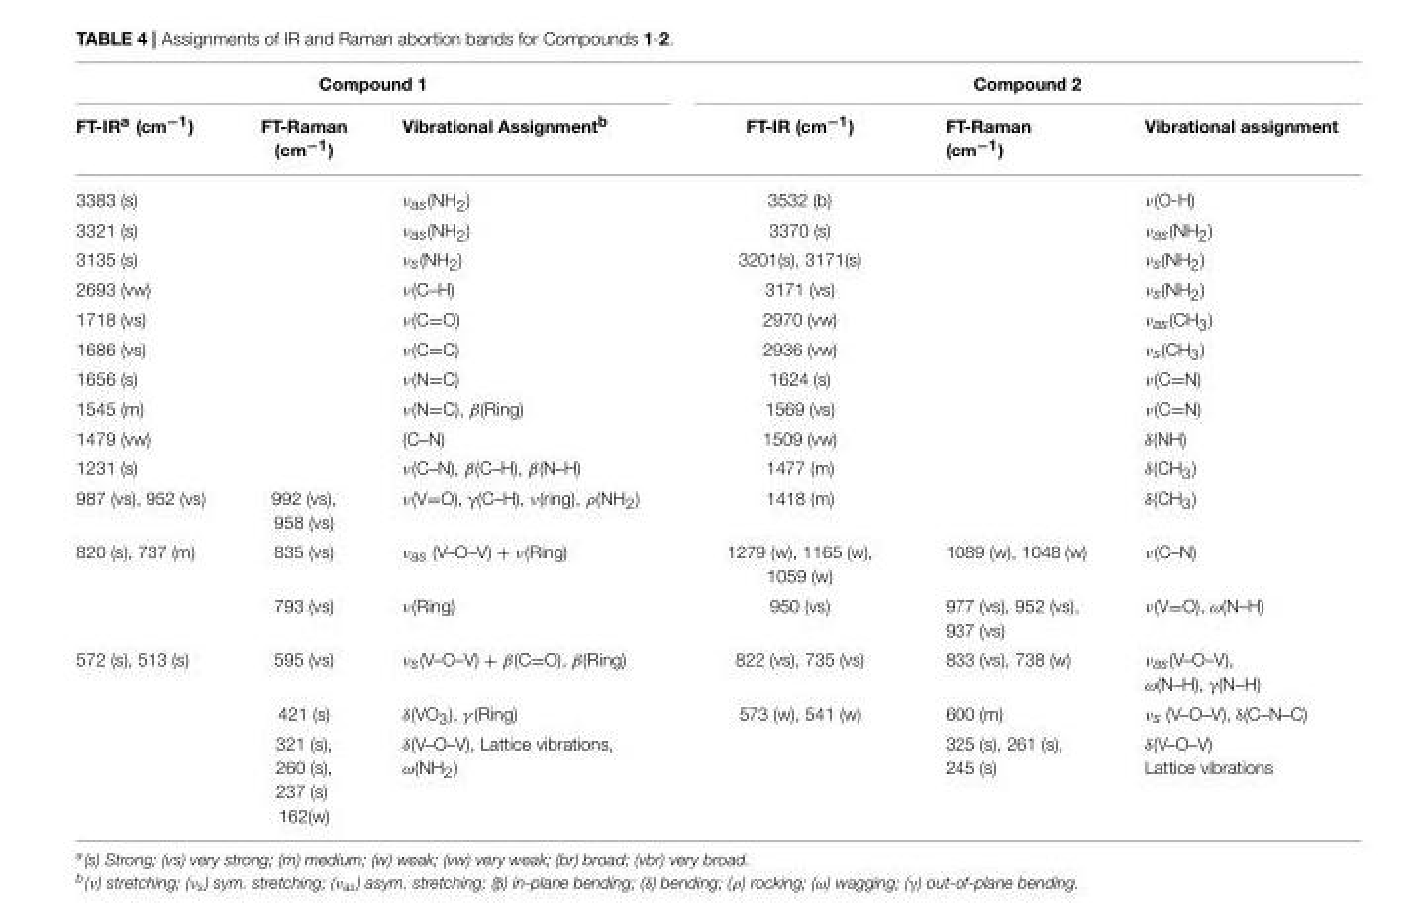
<table><thead><tr><td colspan="3">Compound 1</td><td colspan="3">Compound 2</td></tr><tr><td>FT-IR<sup>a</sup> (cm<sup>−1</sup>)</td><td>FT-Raman (cm<sup>−1</sup>)</td><td>Vibrational Assignment<sup>b</sup></td><td>FT-IR (cm<sup>−1</sup>)</td><td>FT-Raman (cm<sup>−1</sup>)</td><td>Vibrational assignment</td></tr></thead><tbody><tr><td>3383 (s)</td><td></td><td>ν<sub>as</sub>(NH<sub>2</sub>)</td><td>3532 (b)</td><td></td><td>ν(O-H)</td></tr><tr><td>3321 (s)</td><td></td><td>ν<sub>as</sub>(NH<sub>2</sub>)</td><td>3370 (s)</td><td></td><td>ν<sub>as</sub>(NH<sub>2</sub>)</td></tr><tr><td>3135 (s)</td><td></td><td>ν<sub>s</sub>(NH<sub>2</sub>)</td><td>3201(s), 3171(s)</td><td></td><td>ν<sub>s</sub>(NH<sub>2</sub>)</td></tr><tr><td>2693 (vw)</td><td></td><td>ν(C–H)</td><td>3171 (vs)</td><td></td><td>ν<sub>s</sub>(NH<sub>2</sub>)</td></tr><tr><td>1718 (vs)</td><td></td><td>ν(C=O)</td><td>2970 (vw)</td><td></td><td>ν<sub>as</sub>(CH<sub>3</sub>)</td></tr><tr><td>1686 (vs)</td><td></td><td>ν(C=C)</td><td>2936 (vw)</td><td></td><td>ν<sub>s</sub>(CH<sub>3</sub>)</td></tr><tr><td>1656 (s)</td><td></td><td>ν(N=C)</td><td>1624 (s)</td><td></td><td>ν(C=N)</td></tr><tr><td>1545 (m)</td><td></td><td>ν(N=C), β(Ring)</td><td>1569 (vs)</td><td></td><td>ν(C=N)</td></tr><tr><td>1479 (vw)</td><td></td><td>(C–N)</td><td>1509 (vw)</td><td></td><td>δ(NH)</td></tr><tr><td>1231 (s)</td><td></td><td>ν(C–N), β(C–H), β(N–H)</td><td>1477 (m)</td><td></td><td>δ(CH<sub>3</sub>)</td></tr><tr><td>987 (vs), 952 (vs)</td><td>992 (vs), 958 (vs)</td><td>ν(V=O), γ(C–H), ν(ring), ρ(NH<sub>2</sub>)</td><td>1418 (m)</td><td></td><td>δ(CH<sub>3</sub>)</td></tr><tr><td rowspan="2">820 (s), 737 (m)</td><td>835 (vs)</td><td>ν<sub>as</sub> (V–O–V) + ν(Ring)</td><td>1279 (w), 1165 (w), 1059 (w)</td><td>1089 (w), 1048 (w)</td><td>ν(C–N)</td></tr><tr><td>793 (vs)</td><td>ν(Ring)</td><td>950 (vs)</td><td>977 (vs), 952 (vs), 937 (vs)</td><td>ν(V=O), ω(N–H)</td></tr><tr><td rowspan="3">572 (s), 513 (s)</td><td>595 (vs)</td><td>ν<sub>s</sub>(V–O–V) + β(C=O), β(Ring)</td><td>822 (vs), 735 (vs)</td><td>833 (vs), 738 (w)</td><td>ν<sub>as</sub>(V–O–V), ω(N–H), γ(N–H)</td></tr><tr><td>421 (s)</td><td>δ(VO<sub>3</sub>), γ (Ring)</td><td>573 (w), 541 (w)</td><td>600 (m)</td><td>ν<sub>s</sub> (V–O–V), δ(C–N–C)</td></tr><tr><td>321 (s), 260 (s), 237 (s) 162(w)</td><td>δ(V–O–V), Lattice vibrations, ω(NH<sub>2</sub>)</td><td></td><td>325 (s), 261 (s), 245 (s)</td><td>δ(V–O–V) Lattice vibrations</td></tr></tbody></table>